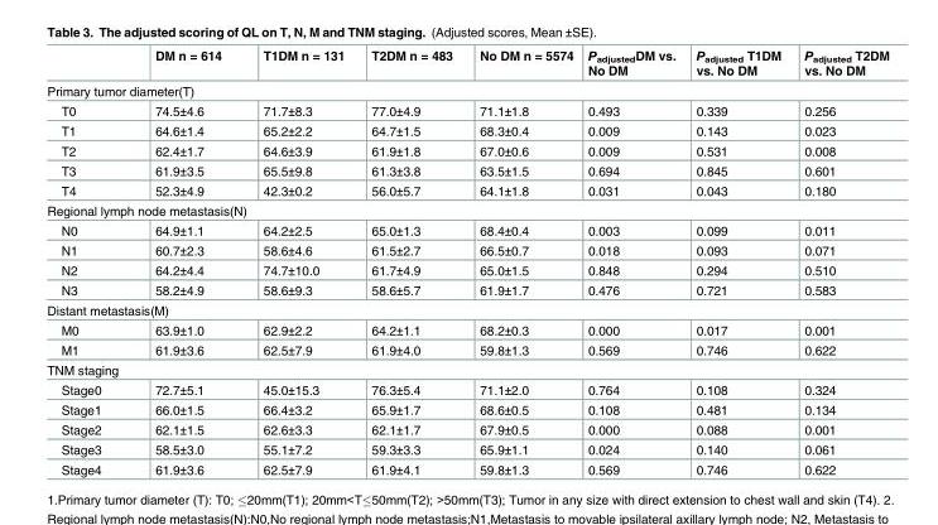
<table><thead><tr><td></td><td>DM n = 614</td><td>T1DM n = 131</td><td>T2DM n = 483</td><td>No DM n = 5574</td><td>P<sub>adjusted</sub>DM vs. No DM</td><td>P<sub>adjusted</sub> T1DM vs. No DM</td><td>P<sub>adjusted</sub> T2DM vs. No DM</td></tr></thead><tbody><tr><td colspan="8">Primary tumor diameter(T)</td></tr><tr><td>T0</td><td>74.5±4.6</td><td>71.7±8.3</td><td>77.0±4.9</td><td>71.1±1.8</td><td>0.493</td><td>0.339</td><td>0.256</td></tr><tr><td>T1</td><td>64.6±1.4</td><td>65.2±2.2</td><td>64.7±1.5</td><td>68.3±0.4</td><td>0.009</td><td>0.143</td><td>0.023</td></tr><tr><td>T2</td><td>62.4±1.7</td><td>64.6±3.9</td><td>61.9±1.8</td><td>67.0±0.6</td><td>0.009</td><td>0.531</td><td>0.008</td></tr><tr><td>T3</td><td>61.9±3.5</td><td>65.5±9.8</td><td>61.3±3.8</td><td>63.5±1.5</td><td>0.694</td><td>0.845</td><td>0.601</td></tr><tr><td>T4</td><td>52.3±4.9</td><td>42.3±0.2</td><td>56.0±5.7</td><td>64.1±1.8</td><td>0.031</td><td>0.043</td><td>0.180</td></tr><tr><td colspan="8">Regional lymph node metastasis(N)</td></tr><tr><td>N0</td><td>64.9±1.1</td><td>64.2±2.5</td><td>65.0±1.3</td><td>68.4±0.4</td><td>0.003</td><td>0.099</td><td>0.011</td></tr><tr><td>N1</td><td>60.7±2.3</td><td>58.6±4.6</td><td>61.5±2.7</td><td>66.5±0.7</td><td>0.018</td><td>0.093</td><td>0.071</td></tr><tr><td>N2</td><td>64.2±4.4</td><td>74.7±10.0</td><td>61.7±4.9</td><td>65.0±1.5</td><td>0.848</td><td>0.294</td><td>0.510</td></tr><tr><td>N3</td><td>58.2±4.9</td><td>58.6±9.3</td><td>58.6±5.7</td><td>61.9±1.7</td><td>0.476</td><td>0.721</td><td>0.583</td></tr><tr><td colspan="8">Distant metastasis(M)</td></tr><tr><td>M0</td><td>63.9±1.0</td><td>62.9±2.2</td><td>64.2±1.1</td><td>68.2±0.3</td><td>0.000</td><td>0.017</td><td>0.001</td></tr><tr><td>M1</td><td>61.9±3.6</td><td>62.5±7.9</td><td>61.9±4.0</td><td>59.8±1.3</td><td>0.569</td><td>0.746</td><td>0.622</td></tr><tr><td colspan="8">TNM staging</td></tr><tr><td>Stage0</td><td>72.7±5.1</td><td>45.0±15.3</td><td>76.3±5.4</td><td>71.1±2.0</td><td>0.764</td><td>0.108</td><td>0.324</td></tr><tr><td>Stage1</td><td>66.0±1.5</td><td>66.4±3.2</td><td>65.9±1.7</td><td>68.6±0.5</td><td>0.108</td><td>0.481</td><td>0.134</td></tr><tr><td>Stage2</td><td>62.1±1.5</td><td>62.6±3.3</td><td>62.1±1.7</td><td>67.9±0.5</td><td>0.000</td><td>0.088</td><td>0.001</td></tr><tr><td>Stage3</td><td>58.5±3.0</td><td>55.1±7.2</td><td>59.3±3.3</td><td>65.9±1.1</td><td>0.024</td><td>0.140</td><td>0.061</td></tr><tr><td>Stage4</td><td>61.9±3.6</td><td>62.5±7.9</td><td>61.9±4.1</td><td>59.8±1.3</td><td>0.569</td><td>0.746</td><td>0.622</td></tr></tbody></table>